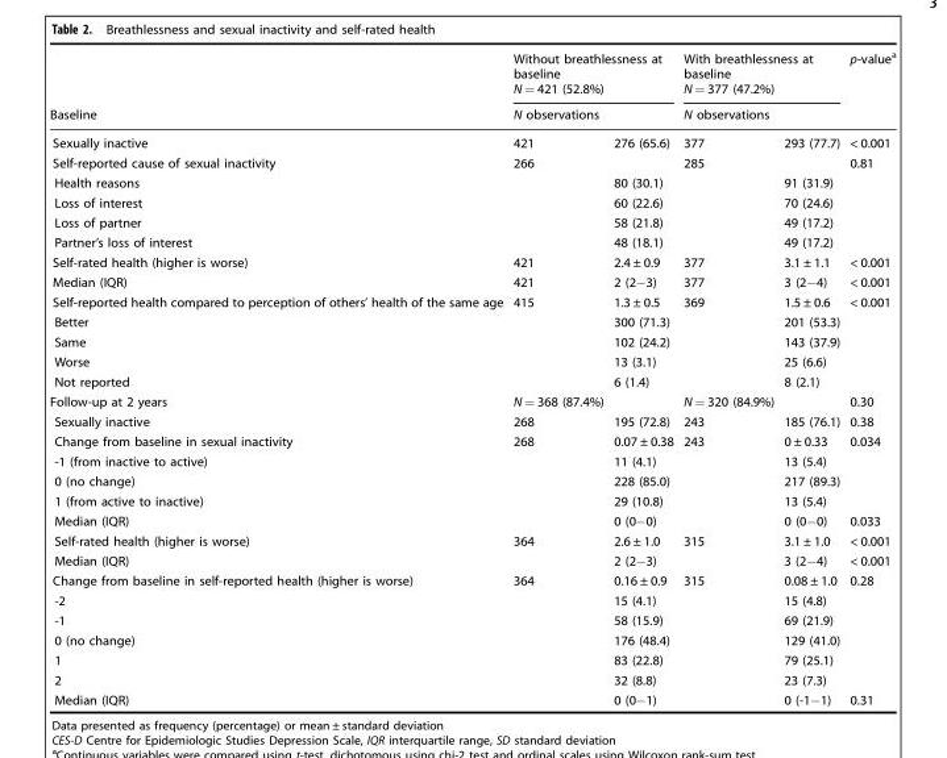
<table><thead><tr><td rowspan="2">Baseline</td><td colspan="2">Without breathlessness at baseline N = 421 (52.8%)</td><td colspan="2">With breathlessness at baseline N = 377 (47.2%)</td><td rowspan="2">p-value<sup>a</sup></td></tr><tr><td>N observations</td><td></td><td>N observations</td><td></td></tr></thead><tbody><tr><td>Sexually inactive</td><td>421</td><td>276 (65.6)</td><td>377</td><td>293 (77.7)</td><td>&lt; 0.001</td></tr><tr><td>Self-reported cause of sexual inactivity</td><td>266</td><td></td><td>285</td><td></td><td>0.81</td></tr><tr><td>Health reasons</td><td></td><td>80 (30.1)</td><td></td><td>91 (31.9)</td><td></td></tr><tr><td>Loss of interest</td><td></td><td>60 (22.6)</td><td></td><td>70 (24.6)</td><td></td></tr><tr><td>Loss of partner</td><td></td><td>58 (21.8)</td><td></td><td>49 (17.2)</td><td></td></tr><tr><td>Partner’s loss of interest</td><td></td><td>48 (18.1)</td><td></td><td>49 (17.2)</td><td></td></tr><tr><td>Self-rated health (higher is worse)</td><td>421</td><td>2.4 ± 0.9</td><td>377</td><td>3.1 ± 1.1</td><td>&lt; 0.001</td></tr><tr><td>Median (IQR)</td><td>421</td><td>2 (2−3)</td><td>377</td><td>3 (2−4)</td><td>&lt; 0.001</td></tr><tr><td>Self-reported health compared to perception of others’ health of the same age</td><td>415</td><td>1.3 ± 0.5</td><td>369</td><td>1.5 ± 0.6</td><td>&lt; 0.001</td></tr><tr><td>Better</td><td></td><td>300 (71.3)</td><td></td><td>201 (53.3)</td><td></td></tr><tr><td>Same</td><td></td><td>102 (24.2)</td><td></td><td>143 (37.9)</td><td></td></tr><tr><td>Worse</td><td></td><td>13 (3.1)</td><td></td><td>25 (6.6)</td><td></td></tr><tr><td>Not reported</td><td></td><td>6 (1.4)</td><td></td><td>8 (2.1)</td><td></td></tr><tr><td>Follow-up at 2 years</td><td>N = 368 (87.4%)</td><td></td><td>N = 320 (84.9%)</td><td></td><td>0.30</td></tr><tr><td>Sexually inactive</td><td>268</td><td>195 (72.8)</td><td>243</td><td>185 (76.1)</td><td>0.38</td></tr><tr><td>Change from baseline in sexual inactivity</td><td>268</td><td>0.07 ± 0.38</td><td>243</td><td>0 ± 0.33</td><td>0.034</td></tr><tr><td>-1 (from inactive to active)</td><td></td><td>11 (4.1)</td><td></td><td>13 (5.4)</td><td></td></tr><tr><td>0 (no change)</td><td></td><td>228 (85.0)</td><td></td><td>217 (89.3)</td><td></td></tr><tr><td>1 (from active to inactive)</td><td></td><td>29 (10.8)</td><td></td><td>13 (5.4)</td><td></td></tr><tr><td>Median (IQR)</td><td></td><td>0 (0−0)</td><td></td><td>0 (0−0)</td><td>0.033</td></tr><tr><td>Self-rated health (higher is worse)</td><td>364</td><td>2.6 ± 1.0</td><td>315</td><td>3.1 ± 1.0</td><td>&lt; 0.001</td></tr><tr><td>Median (IQR)</td><td></td><td>2 (2−3)</td><td></td><td>3 (2−4)</td><td>&lt; 0.001</td></tr><tr><td>Change from baseline in self-reported health (higher is worse)</td><td>364</td><td>0.16 ± 0.9</td><td>315</td><td>0.08 ± 1.0</td><td>0.28</td></tr><tr><td>-2</td><td></td><td>15 (4.1)</td><td></td><td>15 (4.8)</td><td></td></tr><tr><td>-1</td><td></td><td>58 (15.9)</td><td></td><td>69 (21.9)</td><td></td></tr><tr><td>0 (no change)</td><td></td><td>176 (48.4)</td><td></td><td>129 (41.0)</td><td></td></tr><tr><td>1</td><td></td><td>83 (22.8)</td><td></td><td>79 (25.1)</td><td></td></tr><tr><td>2</td><td></td><td>32 (8.8)</td><td></td><td>23 (7.3)</td><td></td></tr><tr><td>Median (IQR)</td><td></td><td>0 (0−1)</td><td></td><td>0 (-1−1)</td><td>0.31</td></tr></tbody></table>